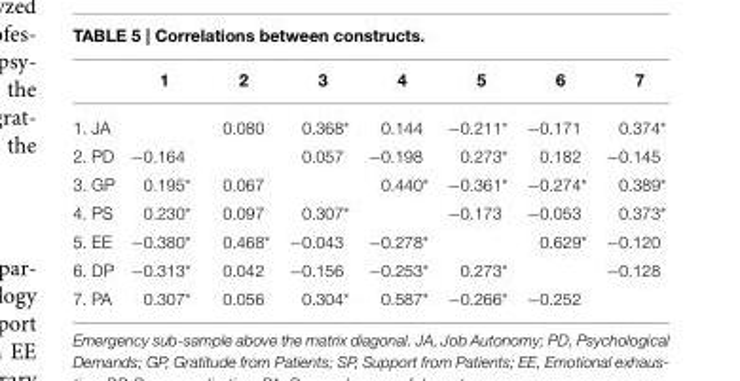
<table><thead><tr><td></td><td>1</td><td>2</td><td>3</td><td>4</td><td>5</td><td>6</td><td>7</td></tr></thead><tbody><tr><td>1. JA</td><td></td><td>0.080</td><td>0.368*</td><td>0.144</td><td>−0.211*</td><td>−0.171</td><td>0.374*</td></tr><tr><td>2. PD</td><td>−0.164</td><td></td><td>0.057</td><td>−0.198</td><td>0.273*</td><td>0.182</td><td>−0.145</td></tr><tr><td>3. GP</td><td>0.195*</td><td>0.067</td><td></td><td>0.440*</td><td>−0.361*</td><td>−0.274*</td><td>0.389*</td></tr><tr><td>4. PS</td><td>0.230*</td><td>0.097</td><td>0.307*</td><td></td><td>−0.173</td><td>−0.053</td><td>0.373*</td></tr><tr><td>5. EE</td><td>−0.380*</td><td>0.468*</td><td>−0.043</td><td>−0.278*</td><td></td><td>0.629*</td><td>−0.120</td></tr><tr><td>6. DP</td><td>−0.313*</td><td>0.042</td><td>−0.156</td><td>−0.253*</td><td>0.273*</td><td></td><td>−0.128</td></tr><tr><td>7. PA</td><td>0.307*</td><td>0.056</td><td>0.304*</td><td>0.587*</td><td>−0.266*</td><td>−0.252</td><td></td></tr></tbody></table>